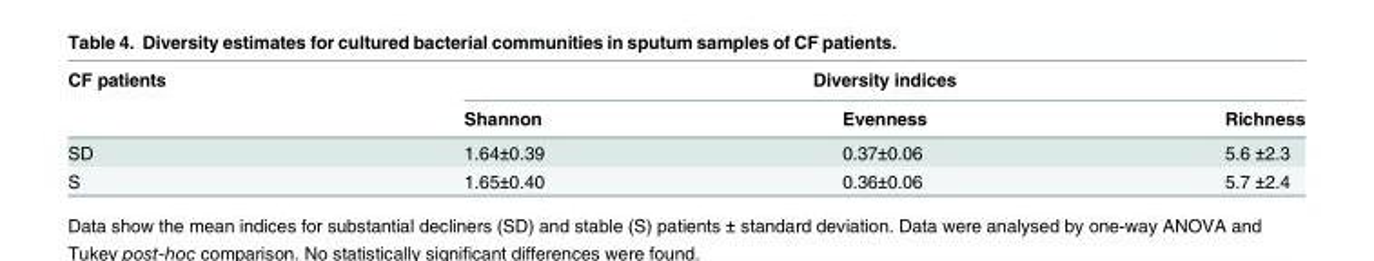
<table><thead><tr><td rowspan="2">CF patients</td><td colspan="3">Diversity indices</td></tr><tr><td>Shannon</td><td>Evenness</td><td>Richness</td></tr></thead><tbody><tr><td>SD</td><td>1.64±0.39</td><td>0.37±0.06</td><td>5.6 ±2.3</td></tr><tr><td>S</td><td>1.65±0.40</td><td>0.36±0.06</td><td>5.7 ±2.4</td></tr></tbody></table>